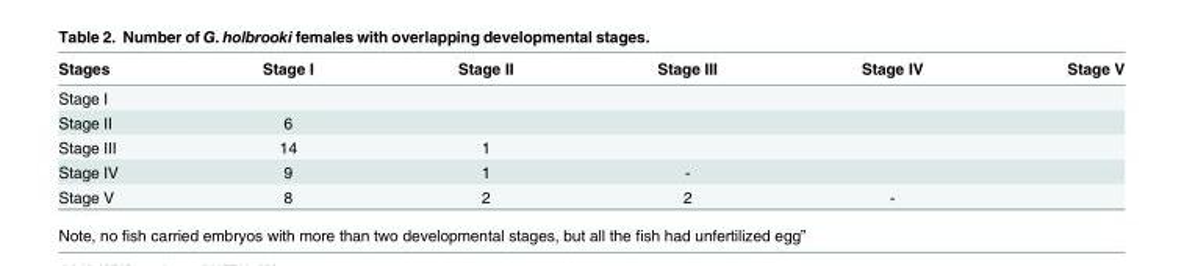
<table><thead><tr><td>Stages</td><td>Stage I</td><td>Stage II</td><td>Stage III</td><td>Stage IV</td><td>Stage V</td></tr></thead><tbody><tr><td colspan="6">Stage I</td></tr><tr><td>Stage II</td><td>6</td><td></td><td></td><td></td><td></td></tr><tr><td>Stage III</td><td>14</td><td>1</td><td></td><td></td><td></td></tr><tr><td>Stage IV</td><td>9</td><td>1</td><td>-</td><td></td><td></td></tr><tr><td>Stage V</td><td>8</td><td>2</td><td>2</td><td>-</td><td></td></tr></tbody></table>